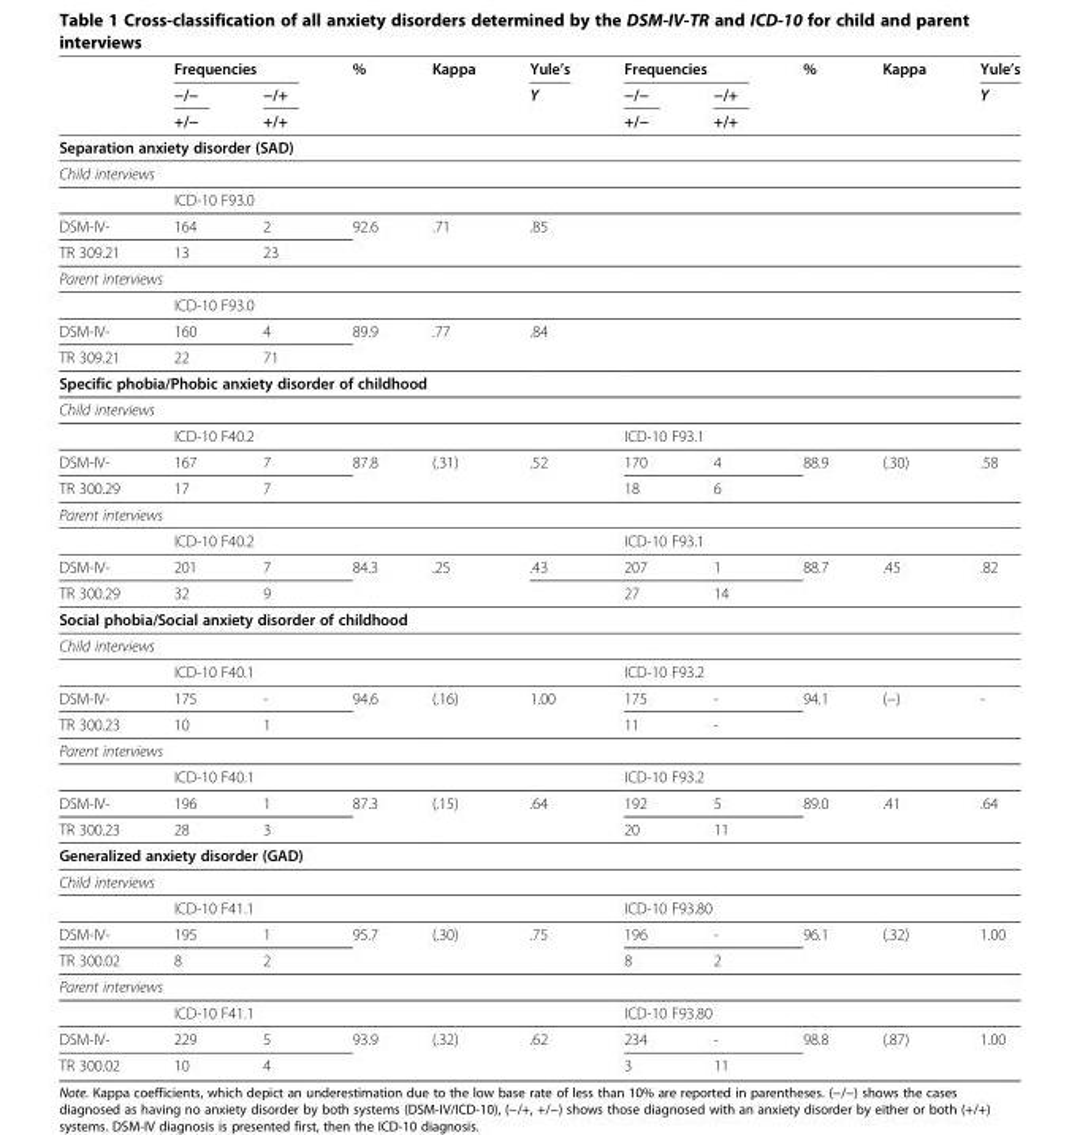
<table><thead><tr><td rowspan="3"></td><td rowspan="3">Frequencies −/− +/−</td><td rowspan="3">−/+ +/+</td><td rowspan="3">%</td><td rowspan="3">Kappa</td><td rowspan="3">Yule’s Y</td><td rowspan="3">Frequencies −/− +/−</td><td rowspan="3">−/+ +/+</td><td rowspan="3">%</td><td rowspan="3">Kappa</td><td rowspan="3">Yule’s Y</td></tr><tr></tr><tr></tr></thead><tbody><tr><td colspan="11">Separation anxiety disorder (SAD)</td></tr><tr><td colspan="11">Child interviews</td></tr><tr><td></td><td colspan="3">ICD-10 F93.0</td><td></td><td></td><td></td><td></td><td></td><td></td><td></td></tr><tr><td>DSM-IV-</td><td>164</td><td>2</td><td>92.6</td><td>.71</td><td>.85</td><td></td><td></td><td></td><td></td><td></td></tr><tr><td>TR 309.21</td><td>13</td><td>23</td><td></td><td></td><td></td><td></td><td></td><td></td><td></td><td></td></tr><tr><td colspan="11">Parent interviews</td></tr><tr><td></td><td colspan="3">ICD-10 F93.0</td><td></td><td></td><td></td><td></td><td></td><td></td><td></td></tr><tr><td>DSM-IV-</td><td>160</td><td>4</td><td>89.9</td><td>.77</td><td>.84</td><td></td><td></td><td></td><td></td><td></td></tr><tr><td>TR 309.21</td><td>22</td><td>71</td><td></td><td></td><td></td><td></td><td></td><td></td><td></td><td></td></tr><tr><td colspan="11">Specific phobia/Phobic anxiety disorder of childhood</td></tr><tr><td colspan="11">Child interviews</td></tr><tr><td></td><td colspan="3">ICD-10 F40.2</td><td></td><td></td><td colspan="3">ICD-10 F93.1</td><td></td><td></td></tr><tr><td>DSM-IV-</td><td>167</td><td>7</td><td>87.8</td><td>(.31)</td><td>.52</td><td>170</td><td>4</td><td>88.9</td><td>(.30)</td><td>.58</td></tr><tr><td>TR 300.29</td><td>17</td><td>7</td><td></td><td></td><td></td><td>18</td><td>6</td><td></td><td></td><td></td></tr><tr><td colspan="11">Parent interviews</td></tr><tr><td></td><td colspan="3">ICD-10 F40.2</td><td></td><td></td><td colspan="3">ICD-10 F93.1</td><td></td><td></td></tr><tr><td>DSM-IV-</td><td>201</td><td>7</td><td>84.3</td><td>.25</td><td>.43</td><td>207</td><td>1</td><td>88.7</td><td>.45</td><td>.82</td></tr><tr><td>TR 300.29</td><td>32</td><td>9</td><td></td><td></td><td></td><td>27</td><td>14</td><td></td><td></td><td></td></tr><tr><td colspan="11">Social phobia/Social anxiety disorder of childhood</td></tr><tr><td colspan="11">Child interviews</td></tr><tr><td></td><td colspan="3">ICD-10 F40.1</td><td></td><td></td><td colspan="3">ICD-10 F93.2</td><td></td><td></td></tr><tr><td>DSM-IV-</td><td>175</td><td>-</td><td>94.6</td><td>(.16)</td><td>1.00</td><td>175</td><td>-</td><td>94.1</td><td>(−)</td><td>-</td></tr><tr><td>TR 300.23</td><td>10</td><td>1</td><td></td><td></td><td></td><td>11</td><td>-</td><td></td><td></td><td></td></tr><tr><td colspan="11">Parent interviews</td></tr><tr><td></td><td colspan="3">ICD-10 F40.1</td><td></td><td></td><td colspan="3">ICD-10 F93.2</td><td></td><td></td></tr><tr><td>DSM-IV-</td><td>196</td><td>1</td><td>87.3</td><td>(.15)</td><td>.64</td><td>192</td><td>5</td><td>89.0</td><td>.41</td><td>.64</td></tr><tr><td>TR 300.23</td><td>28</td><td>3</td><td></td><td></td><td></td><td>20</td><td>11</td><td></td><td></td><td></td></tr><tr><td colspan="11">Generalized anxiety disorder (GAD)</td></tr><tr><td colspan="11">Child interviews</td></tr><tr><td></td><td colspan="3">ICD-10 F41.1</td><td></td><td></td><td colspan="3">ICD-10 F93.80</td><td></td><td></td></tr><tr><td>DSM-IV-</td><td>195</td><td>1</td><td>95.7</td><td>(.30)</td><td>.75</td><td>196</td><td>-</td><td>96.1</td><td>(.32)</td><td>1.00</td></tr><tr><td>TR 300.02</td><td>8</td><td>2</td><td></td><td></td><td></td><td>8</td><td>2</td><td></td><td></td><td></td></tr><tr><td colspan="11">Parent interviews</td></tr><tr><td></td><td colspan="3">ICD-10 F41.1</td><td></td><td></td><td colspan="3">ICD-10 F93.80</td><td></td><td></td></tr><tr><td>DSM-IV-</td><td>229</td><td>5</td><td>93.9</td><td>(.32)</td><td>.62</td><td>234</td><td>-</td><td>98.8</td><td>(.87)</td><td>1.00</td></tr><tr><td>TR 300.02</td><td>10</td><td>4</td><td></td><td></td><td></td><td>3</td><td>11</td><td></td><td></td><td></td></tr></tbody></table>